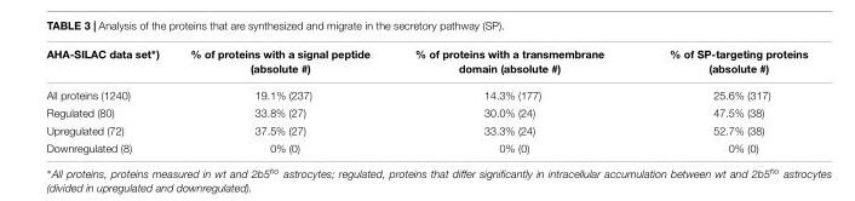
<table><thead><tr><td>AHA-SILAC data set∗)</td><td>% of proteins with a signal peptide (absolute #)</td><td>% of proteins with a transmembrane domain (absolute #)</td><td>% of SP-targeting proteins (absolute #)</td></tr></thead><tbody><tr><td>All proteins (1240)</td><td>19.1% (237)</td><td>14.3% (177)</td><td>25.6% (317)</td></tr><tr><td>Regulated (80)</td><td>33.8% (27)</td><td>30.0% (24)</td><td>47.5% (38)</td></tr><tr><td>Upregulated (72)</td><td>37.5% (27)</td><td>33.3% (24)</td><td>52.7% (38)</td></tr><tr><td>Downregulated (8)</td><td>0% (0)</td><td>0% (0)</td><td>0% (0)</td></tr></tbody></table>